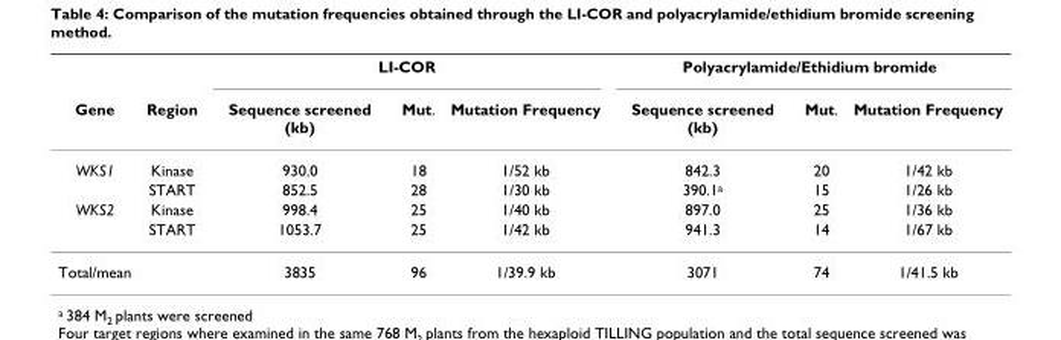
<table><thead><tr><td rowspan="2">Gene</td><td rowspan="2">Region</td><td colspan="3">LI-COR</td><td colspan="3">Polyacrylamide/Ethidium bromide</td></tr><tr><td>Sequence screened (kb)</td><td>Mut.</td><td>Mutation Frequency</td><td>Sequence screened (kb)</td><td>Mut.</td><td>Mutation Frequency</td></tr></thead><tbody><tr><td rowspan="2">WKS1</td><td>Kinase</td><td>930.0</td><td>18</td><td>1/52 kb</td><td>842.3</td><td>20</td><td>1/42 kb</td></tr><tr><td>START</td><td>852.5</td><td>28</td><td>1/30 kb</td><td>390.1<sup>a</sup></td><td>15</td><td>1/26 kb</td></tr><tr><td rowspan="2">WKS2</td><td>Kinase</td><td>998.4</td><td>25</td><td>1/40 kb</td><td>897.0</td><td>25</td><td>1/36 kb</td></tr><tr><td>START</td><td>1053.7</td><td>25</td><td>1/42 kb</td><td>941.3</td><td>14</td><td>1/67 kb</td></tr><tr><td>Total/mean</td><td></td><td>3835</td><td>96</td><td>1/39.9 kb</td><td>3071</td><td>74</td><td>1/41.5 kb</td></tr></tbody></table>